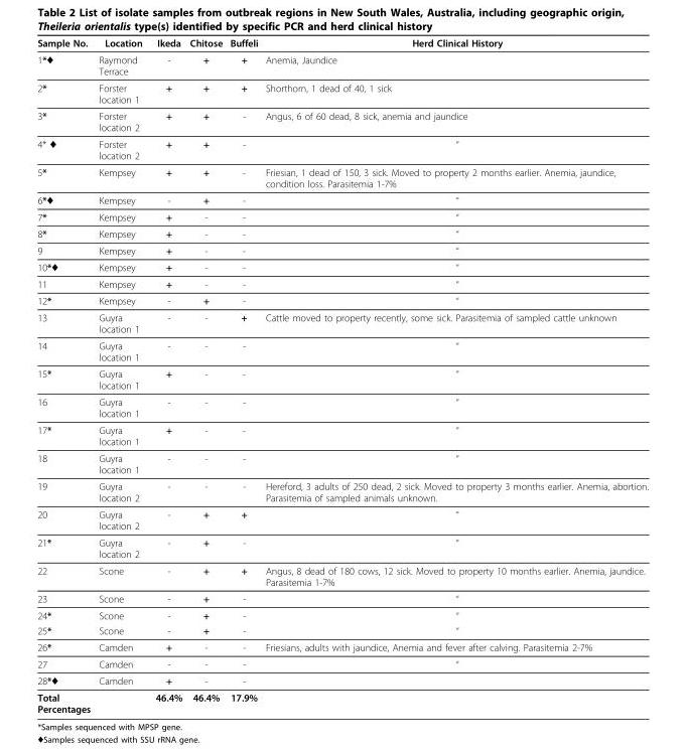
<table><thead><tr><td>Sample No.</td><td>Location</td><td>Ikeda</td><td>Chitose</td><td>Buffeli</td><td>Herd Clinical History</td></tr></thead><tbody><tr><td>1*♦</td><td>Raymond Terrace</td><td>-</td><td>+</td><td>+</td><td>Anemia, Jaundice</td></tr><tr><td>2*</td><td>Forster location 1</td><td>+</td><td>+</td><td>+</td><td>Shorthorn, 1 dead of 40, 1 sick</td></tr><tr><td>3*</td><td>Forster location 2</td><td>+</td><td>+</td><td>-</td><td>Angus, 6 of 60 dead, 8 sick, anemia and jaundice</td></tr><tr><td>4* ♦</td><td>Forster location 2</td><td>+</td><td>+</td><td>-</td><td>“</td></tr><tr><td>5*</td><td>Kempsey</td><td>+</td><td>+</td><td>-</td><td>Friesian, 1 dead of 150, 3 sick. Moved to property 2 months earlier. Anemia, jaundice, condition loss. Parasitemia 1-7%</td></tr><tr><td>6*♦</td><td>Kempsey</td><td>-</td><td>+</td><td>-</td><td>“</td></tr><tr><td>7*</td><td>Kempsey</td><td>+</td><td>-</td><td>-</td><td>“</td></tr><tr><td>8*</td><td>Kempsey</td><td>+</td><td>-</td><td>-</td><td>“</td></tr><tr><td>9</td><td>Kempsey</td><td>+</td><td>-</td><td>-</td><td>“</td></tr><tr><td>10*♦</td><td>Kempsey</td><td>+</td><td>-</td><td>-</td><td>“</td></tr><tr><td>11</td><td>Kempsey</td><td>+</td><td>-</td><td>-</td><td>“</td></tr><tr><td>12*</td><td>Kempsey</td><td>-</td><td>+</td><td>-</td><td>“</td></tr><tr><td>13</td><td>Guyra location 1</td><td>-</td><td>-</td><td>+</td><td>Cattle moved to property recently, some sick. Parasitemia of sampled cattle unknown</td></tr><tr><td>14</td><td>Guyra location 1</td><td>-</td><td>-</td><td>-</td><td>“</td></tr><tr><td>15*</td><td>Guyra location 1</td><td>+</td><td>-</td><td>-</td><td>“</td></tr><tr><td>16</td><td>Guyra location 1</td><td>-</td><td>-</td><td>-</td><td>“</td></tr><tr><td>17*</td><td>Guyra location 1</td><td>+</td><td>-</td><td>-</td><td>“</td></tr><tr><td>18</td><td>Guyra location 1</td><td>-</td><td>-</td><td>-</td><td>“</td></tr><tr><td>19</td><td>Guyra location 2</td><td>-</td><td>-</td><td>-</td><td>Hereford, 3 adults of 250 dead, 2 sick. Moved to property 3 months earlier. Anemia, abortion. Parasitemia of sampled animals unknown.</td></tr><tr><td>20</td><td>Guyra location 2</td><td>-</td><td>+</td><td>+</td><td>“</td></tr><tr><td>21*</td><td>Guyra location 2</td><td>-</td><td>+</td><td>-</td><td>“</td></tr><tr><td>22</td><td>Scone</td><td>-</td><td>+</td><td>+</td><td>Angus, 8 dead of 180 cows, 12 sick. Moved to property 10 months earlier. Anemia, jaundice. Parasitemia 1-7%</td></tr><tr><td>23</td><td>Scone</td><td>-</td><td>+</td><td>-</td><td>“</td></tr><tr><td>24*</td><td>Scone</td><td>-</td><td>+</td><td>-</td><td>“</td></tr><tr><td>25*</td><td>Scone</td><td>-</td><td>+</td><td>-</td><td>“</td></tr><tr><td>26*</td><td>Camden</td><td>+</td><td>-</td><td>-</td><td>Friesians, adults with jaundice, Anemia and fever after calving. Parasitemia 2-7%</td></tr><tr><td>27</td><td>Camden</td><td>-</td><td>-</td><td>-</td><td>“</td></tr><tr><td>28*♦</td><td>Camden</td><td>+</td><td>-</td><td>-</td><td></td></tr><tr><td>Total Percentages</td><td></td><td>46.4%</td><td>46.4%</td><td>17.9%</td><td></td></tr></tbody></table>